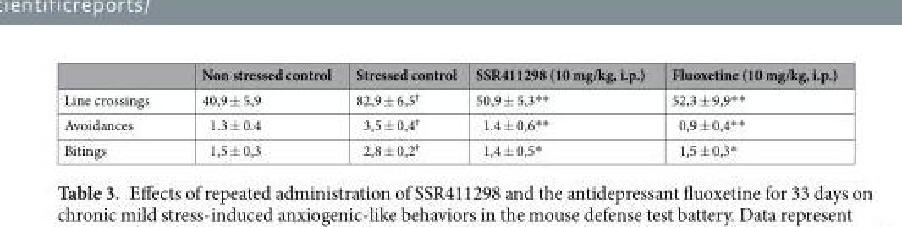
<table><thead><tr><td></td><td>Non stressed control</td><td>Stressed control</td><td>SSR411298 (10 mg/kg, i.p.)</td><td>Fluoxetine (10 mg/kg, i.p.)</td></tr></thead><tbody><tr><td>Line crossings</td><td>40,9 ± 5,9</td><td>82,9 ± 6,5<sup>†</sup></td><td>50,9 ± 5,3**</td><td>52,3 ± 9,9**</td></tr><tr><td>Avoidances</td><td>1.3 ± 0.4</td><td>3,5 ± 0,4<sup>†</sup></td><td>1.4 ± 0,6**</td><td>0,9 ± 0,4**</td></tr><tr><td>Bitings</td><td>1,5 ± 0,3</td><td>2,8 ± 0,2<sup>†</sup></td><td>1,4 ± 0,5*</td><td>1,5 ± 0,3*</td></tr></tbody></table>